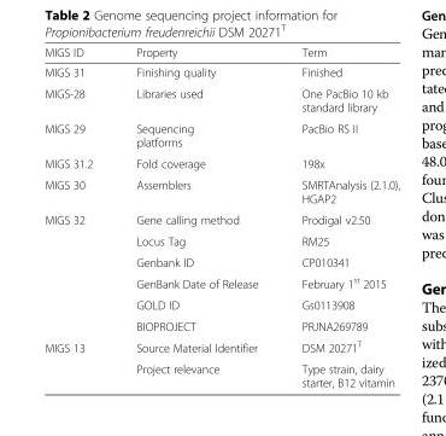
<table><thead><tr><td>MIGS ID</td><td>Property</td><td>Term</td></tr></thead><tbody><tr><td>MIGS 31</td><td>Finishing quality</td><td>Finished</td></tr><tr><td>MIGS-28</td><td>Libraries used</td><td>One PacBio 10 kb standard library</td></tr><tr><td>MIGS 29</td><td>Sequencing platforms</td><td>PacBio RS II</td></tr><tr><td>MIGS 31.2</td><td>Fold coverage</td><td>198x</td></tr><tr><td>MIGS 30</td><td>Assemblers</td><td>SMRTAnalysis (2.1.0), HGAP2</td></tr><tr><td rowspan="6">MIGS 32</td><td>Gene calling method</td><td>Prodigal v2.50</td></tr><tr><td>Locus Tag</td><td>RM25</td></tr><tr><td>Genbank ID</td><td>CP010341</td></tr><tr><td>GenBank Date of Release</td><td>February 1<sup>st</sup> 2015</td></tr><tr><td>GOLD ID</td><td>Gs0113908</td></tr><tr><td>BIOPROJECT</td><td>PRJNA269789</td></tr><tr><td rowspan="2">MIGS 13</td><td>Source Material Identifier</td><td>DSM 20271<sup>T</sup></td></tr><tr><td>Project relevance</td><td>Type strain, dairy starter, B12 vitamin</td></tr></tbody></table>